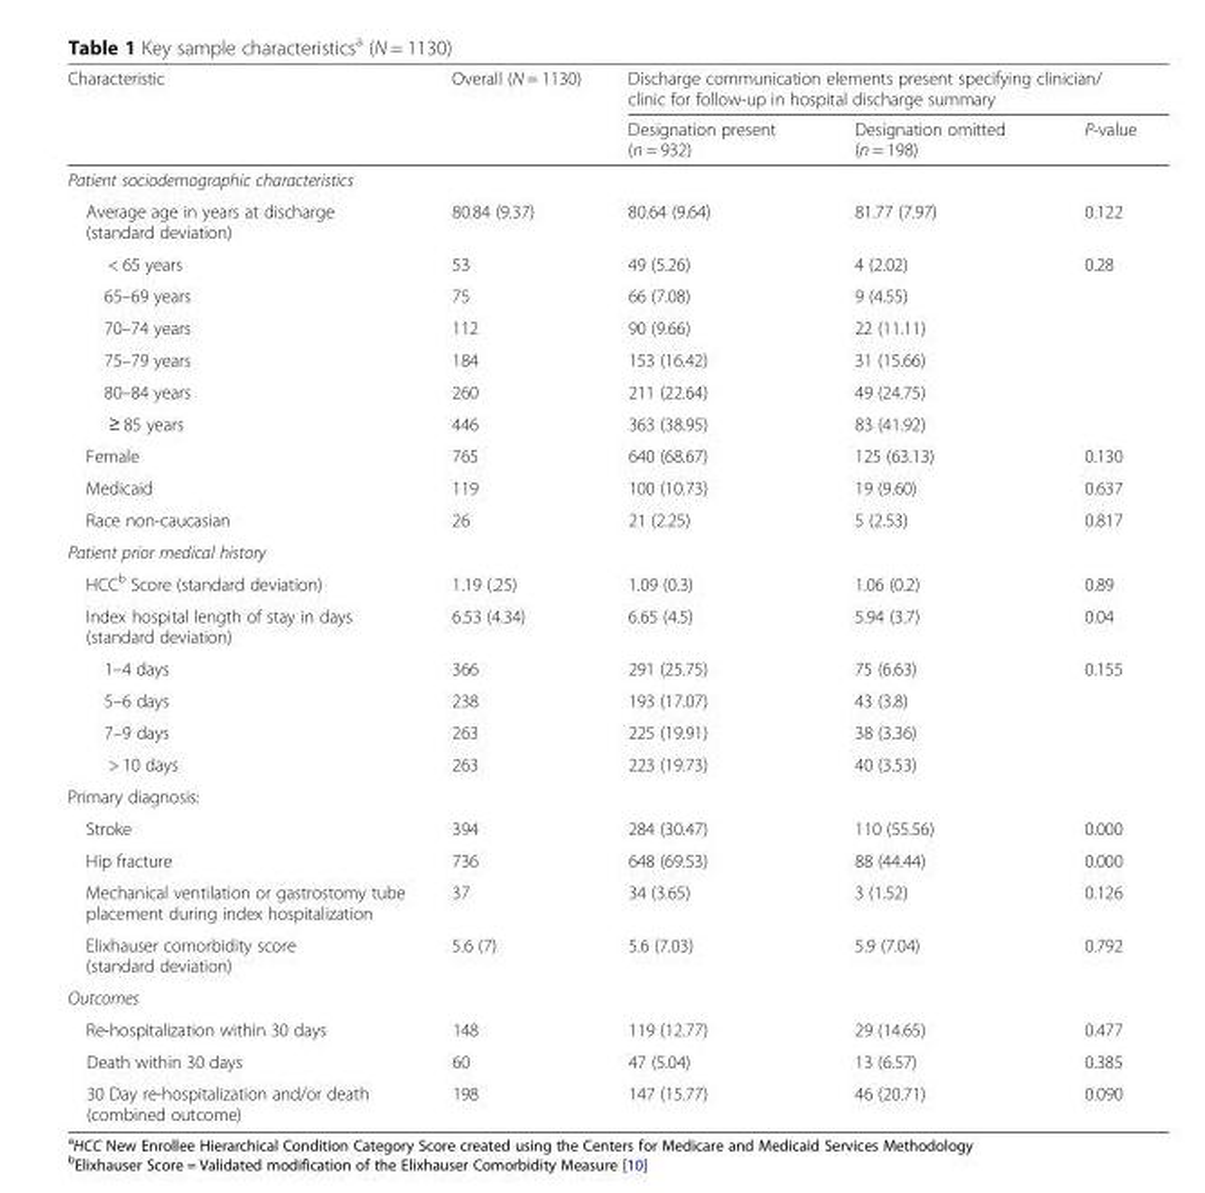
<table><thead><tr><td rowspan="2">Characteristic</td><td rowspan="2">Overall (N = 1130)</td><td colspan="3">Discharge communication elements present specifying clinician/ clinic for follow-up in hospital discharge summary</td></tr><tr><td>Designation present (n = 932)</td><td>Designation omitted (n = 198)</td><td>P-value</td></tr></thead><tbody><tr><td colspan="5">Patient sociodemographic characteristics</td></tr><tr><td>Average age in years at discharge (standard deviation)</td><td>80.84 (9.37)</td><td>80.64 (9.64)</td><td>81.77 (7.97)</td><td>0.122</td></tr><tr><td>&lt; 65 years</td><td>53</td><td>49 (5.26)</td><td>4 (2.02)</td><td>0.28</td></tr><tr><td>65–69 years</td><td>75</td><td>66 (7.08)</td><td>9 (4.55)</td><td></td></tr><tr><td>70–74 years</td><td>112</td><td>90 (9.66)</td><td>22 (11.11)</td><td></td></tr><tr><td>75–79 years</td><td>184</td><td>153 (16.42)</td><td>31 (15.66)</td><td></td></tr><tr><td>80–84 years</td><td>260</td><td>211 (22.64)</td><td>49 (24.75)</td><td></td></tr><tr><td>≥ 85 years</td><td>446</td><td>363 (38.95)</td><td>83 (41.92)</td><td></td></tr><tr><td>Female</td><td>765</td><td>640 (68.67)</td><td>125 (63.13)</td><td>0.130</td></tr><tr><td>Medicaid</td><td>119</td><td>100 (10.73)</td><td>19 (9.60)</td><td>0.637</td></tr><tr><td>Race non-caucasian</td><td>26</td><td>21 (2.25)</td><td>5 (2.53)</td><td>0.817</td></tr><tr><td colspan="5">Patient prior medical history</td></tr><tr><td>HCC<sup>b</sup> Score (standard deviation)</td><td>1.19 (.25)</td><td>1.09 (0.3)</td><td>1.06 (0.2)</td><td>0.89</td></tr><tr><td>Index hospital length of stay in days (standard deviation)</td><td>6.53 (4.34)</td><td>6.65 (4.5)</td><td>5.94 (3.7)</td><td>0.04</td></tr><tr><td>1–4 days</td><td>366</td><td>291 (25.75)</td><td>75 (6.63)</td><td>0.155</td></tr><tr><td>5–6 days</td><td>238</td><td>193 (17.07)</td><td>43 (3.8)</td><td></td></tr><tr><td>7–9 days</td><td>263</td><td>225 (19.91)</td><td>38 (3.36)</td><td></td></tr><tr><td>&gt; 10 days</td><td>263</td><td>223 (19.73)</td><td>40 (3.53)</td><td></td></tr><tr><td colspan="5">Primary diagnosis:</td></tr><tr><td>Stroke</td><td>394</td><td>284 (30.47)</td><td>110 (55.56)</td><td>0.000</td></tr><tr><td>Hip fracture</td><td>736</td><td>648 (69.53)</td><td>88 (44.44)</td><td>0.000</td></tr><tr><td>Mechanical ventilation or gastrostomy tube placement during index hospitalization</td><td>37</td><td>34 (3.65)</td><td>3 (1.52)</td><td>0.126</td></tr><tr><td>Elixhauser comorbidity score (standard deviation)</td><td>5.6 (7)</td><td>5.6 (7.03)</td><td>5.9 (7.04)</td><td>0.792</td></tr><tr><td colspan="5">Outcomes</td></tr><tr><td>Re-hospitalization within 30 days</td><td>148</td><td>119 (12.77)</td><td>29 (14.65)</td><td>0.477</td></tr><tr><td>Death within 30 days</td><td>60</td><td>47 (5.04)</td><td>13 (6.57)</td><td>0.385</td></tr><tr><td>30 Day re-hospitalization and/or death (combined outcome)</td><td>198</td><td>147 (15.77)</td><td>46 (20.71)</td><td>0.090</td></tr></tbody></table>